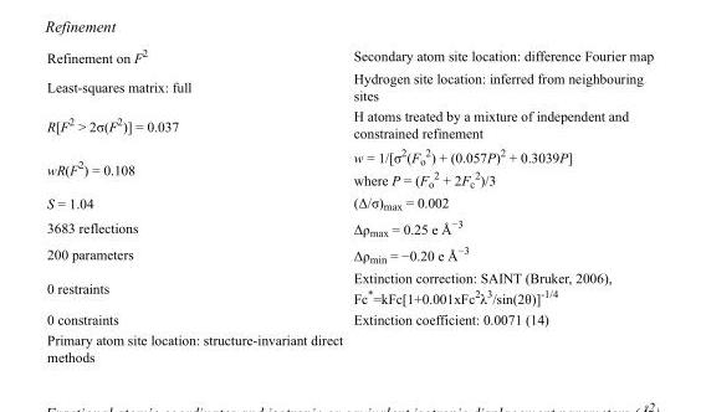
<table><tbody><tr><td>Refinement on F<sup>2</sup></td><td>Secondary atom site location: difference Fourier map</td></tr><tr><td>Least-squares matrix: full</td><td>Hydrogen site location: inferred from neighbouring sites</td></tr><tr><td>R[F<sup>2</sup> &gt; 2σ(F<sup>2</sup>)] = 0.037</td><td>H atoms treated by a mixture of independent and constrained refinement</td></tr><tr><td>wR(F<sup>2</sup>) = 0.108</td><td>w = 1/[σ<sup>2</sup>(F<sub>o</sub> <sup>2</sup>) + (0.057P)<sup>2</sup> + 0.3039P] where P = (F<sub>o</sub> <sup>2</sup> + 2F<sub>c</sub> <sup>2</sup>)/3</td></tr><tr><td>S = 1.04</td><td>(Δ/σ)<sub>max</sub> = 0.002</td></tr><tr><td>3683 reflections</td><td>Δρ<sub>max</sub> = 0.25 e Å<sup>−3</sup></td></tr><tr><td>200 parameters</td><td>Δρ<sub>min</sub> = −0.20 e Å<sup>−3</sup></td></tr><tr><td>0 restraints</td><td>Extinction correction: SAINT (Bruker, 2006), Fc*=kFc[1+0.001xFc<sup>2</sup>λ<sup>3</sup>/sin(2θ)]<sup>-1/4</sup></td></tr><tr><td>0 constraints</td><td>Extinction coefficient: 0.0071 (14)</td></tr><tr><td>Primary atom site location: structure-invariant direct methods</td><td></td></tr></tbody></table>